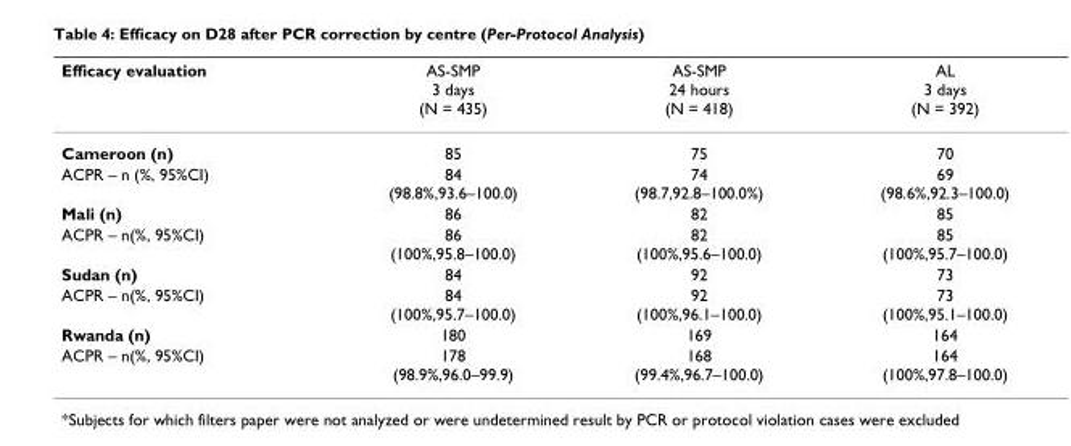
<table><thead><tr><td>Efficacy evaluation</td><td>AS-SMP 3 days (N = 435)</td><td>AS-SMP 24 hours (N = 418)</td><td>AL 3 days (N = 392)</td></tr></thead><tbody><tr><td>Cameroon (n)</td><td>85</td><td>75</td><td>70</td></tr><tr><td>ACPR – n (%, 95%CI)</td><td>84 (98.8%,93.6–100.0)</td><td>74 (98.7,92.8–100.0%)</td><td>69 (98.6%,92.3–100.0)</td></tr><tr><td>Mali (n)</td><td>86</td><td>82</td><td>85</td></tr><tr><td>ACPR – n(%, 95%CI)</td><td>86 (100%,95.8–100.0)</td><td>82 (100%,95.6–100.0)</td><td>85 (100%,95.7–100.0)</td></tr><tr><td>Sudan (n)</td><td>84</td><td>92</td><td>73</td></tr><tr><td>ACPR – n(%, 95%CI)</td><td>84 (100%,95.7–100.0)</td><td>92 (100%,96.1–100.0)</td><td>73 (100%,95.1–100.0)</td></tr><tr><td>Rwanda (n)</td><td>180</td><td>169</td><td>164</td></tr><tr><td>ACPR – n(%, 95%CI)</td><td>178 (98.9%,96.0–99.9)</td><td>168 (99.4%,96.7–100.0)</td><td>164 (100%,97.8–100.0)</td></tr></tbody></table>